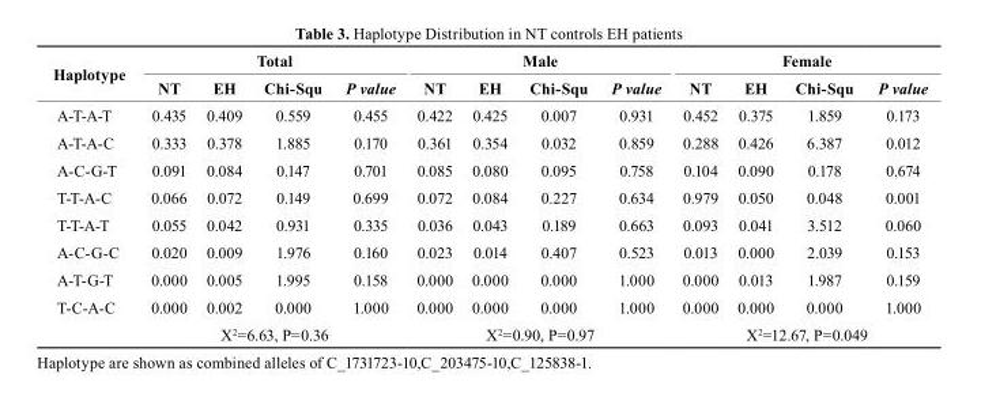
<table><thead><tr><td rowspan="2">Haplotype</td><td colspan="4">total</td><td colspan="4">Male</td><td colspan="4">Female</td></tr><tr><td>Nt</td><td>EH</td><td>chi-squ</td><td>P value</td><td>Nt</td><td>EH</td><td>chi-squ</td><td>P value</td><td>Nt</td><td>EH</td><td>chi-squ</td><td>P value</td></tr></thead><tbody><tr><td>A-T-A-T</td><td>0.435</td><td>0.409</td><td>0.559</td><td>0.455</td><td>0.422</td><td>0.425</td><td>0.007</td><td>0.931</td><td>0.452</td><td>0.375</td><td>1.859</td><td>0.173</td></tr><tr><td>A-T-A-C</td><td>0.333</td><td>0.378</td><td>1.885</td><td>0.170</td><td>0.361</td><td>0.354</td><td>0.032</td><td>0.859</td><td>0.288</td><td>0.426</td><td>6.387</td><td>0.012</td></tr><tr><td>A-C-G-T</td><td>0.091</td><td>0.084</td><td>0.147</td><td>0.701</td><td>0.085</td><td>0.080</td><td>0.095</td><td>0.758</td><td>0.104</td><td>0.090</td><td>0.178</td><td>0.674</td></tr><tr><td>T-T-A-C</td><td>0.066</td><td>0.072</td><td>0.149</td><td>0.699</td><td>0.072</td><td>0.084</td><td>0.227</td><td>0.634</td><td>0.979</td><td>0.050</td><td>0.048</td><td>0.001</td></tr><tr><td>T-T-A-T</td><td>0.055</td><td>0.042</td><td>0.931</td><td>0.335</td><td>0.036</td><td>0.043</td><td>0.189</td><td>0.663</td><td>0.093</td><td>0.041</td><td>3.512</td><td>0.060</td></tr><tr><td>A-C-G-C</td><td>0.020</td><td>0.009</td><td>1.976</td><td>0.160</td><td>0.023</td><td>0.014</td><td>0.407</td><td>0.523</td><td>0.013</td><td>0.000</td><td>2.039</td><td>0.153</td></tr><tr><td>A-T-G-T</td><td>0.000</td><td>0.005</td><td>1.995</td><td>0.158</td><td>0.000</td><td>0.000</td><td>0.000</td><td>1.000</td><td>0.000</td><td>0.013</td><td>1.987</td><td>0.159</td></tr><tr><td rowspan="2">T-C-A-C</td><td>0.000</td><td>0.002</td><td>0.000</td><td>1.000</td><td>0.000</td><td>0.000</td><td>0.000</td><td>1.000</td><td>0.000</td><td>0.000</td><td>0.000</td><td>1.000</td></tr><tr><td colspan="4">Χ2=6.63, P=0.36</td><td colspan="4">Χ2=0.90, P=0.97</td><td colspan="4">Χ2=12.67, P=0.049</td></tr></tbody></table>